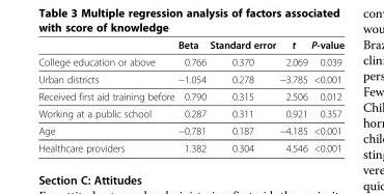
<table><thead><tr><td></td><td>Beta</td><td>Standard error</td><td>t</td><td>P-value</td></tr></thead><tbody><tr><td>College education or above</td><td>0.766</td><td>0.370</td><td>2.069</td><td>0.039</td></tr><tr><td>Urban districts</td><td>−1.054</td><td>0.278</td><td>−3.785</td><td>&lt;0.001</td></tr><tr><td>Received first aid training before</td><td>0.790</td><td>0.315</td><td>2.506</td><td>0.012</td></tr><tr><td>Working at a public school</td><td>0.287</td><td>0.311</td><td>0.921</td><td>0.357</td></tr><tr><td>Age</td><td>−0.781</td><td>0.187</td><td>−4.185</td><td>&lt;0.001</td></tr><tr><td>Healthcare providers</td><td>1.382</td><td>0.304</td><td>4.546</td><td>&lt;0.001</td></tr></tbody></table>